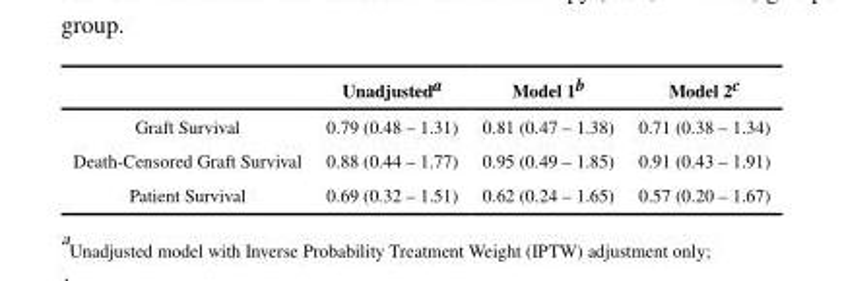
<table><thead><tr><td></td><td>Unadjusted<sup>a</sup></td><td>Model 1<sup>b</sup></td><td>Model 2<sup>c</sup></td></tr></thead><tbody><tr><td>Graft Survival</td><td>0.79 (0.48 – 1.31)</td><td>0.81 (0.47 – 1.38)</td><td>0.71 (0.38 – 1.34)</td></tr><tr><td>Death-Censored Graft Survival</td><td>0.88 (0.44 – 1.77)</td><td>0.95 (0.49 – 1.85)</td><td>0.91 (0.43 – 1.91)</td></tr><tr><td>Patient Survival</td><td>0.69 (0.32 – 1.51)</td><td>0.62 (0.24 – 1.65)</td><td>0.57 (0.20 – 1.67)</td></tr></tbody></table>